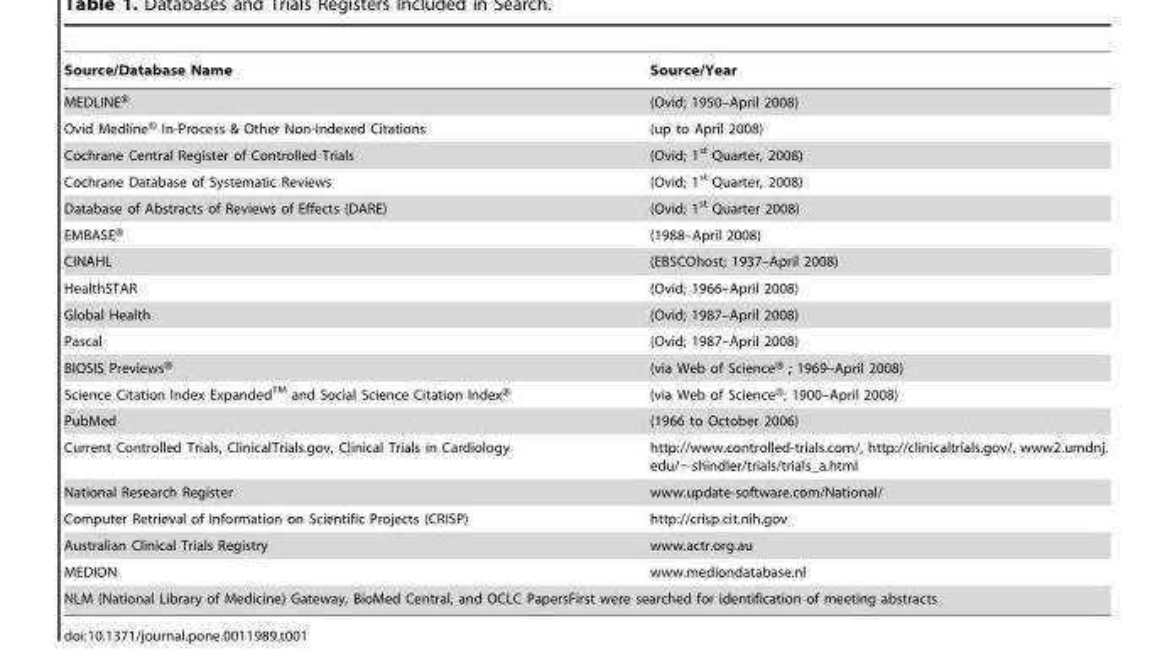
<table><thead><tr><td>Source/Database Name</td><td>Source/Year</td></tr></thead><tbody><tr><td>MEDLINE®</td><td>(Ovid; 1950–April 2008)</td></tr><tr><td>Ovid Medline® In-Process &amp; Other Non-Indexed Citations</td><td>(up to April 2008)</td></tr><tr><td>Cochrane Central Register of Controlled Trials</td><td>(Ovid; 1<sup>st</sup> Quarter, 2008)</td></tr><tr><td>Cochrane Database of Systematic Reviews</td><td>(Ovid; 1<sup>st</sup> Quarter, 2008)</td></tr><tr><td>Database of Abstracts of Reviews of Effects (DARE)</td><td>(Ovid; 1<sup>st</sup> Quarter 2008)</td></tr><tr><td>EMBASE®</td><td>(1988–April 2008)</td></tr><tr><td>CINAHL</td><td>(EBSCOhost; 1937–April 2008)</td></tr><tr><td>HealthSTAR</td><td>(Ovid; 1966–April 2008)</td></tr><tr><td>Global Health</td><td>(Ovid; 1987–April 2008)</td></tr><tr><td>Pascal</td><td>(Ovid; 1987–April 2008)</td></tr><tr><td>BIOSIS Previews®</td><td>(via Web of Science® ; 1969–April 2008)</td></tr><tr><td>Science Citation Index ExpandedTM and Social Science Citation IndexH</td><td>(via Web of Science®; 1900–April 2008)</td></tr><tr><td>PubMed</td><td>(1966 to October 2006)</td></tr><tr><td>Current Controlled Trials, ClinicalTrials.gov, Clinical Trials in Cardiology</td><td>http://www.controlled-trials.com/, http://clinicaltrials.gov/, www2.umdnj. edu/~shindler/trials/trials_a.html</td></tr><tr><td>National Research Register</td><td>www.update-software.com/National/</td></tr><tr><td>Computer Retrieval of Information on Scientific Projects (CRISP)</td><td>http://crisp.cit.nih.gov</td></tr><tr><td>Australian Clinical Trials Registry</td><td>www.actr.org.au</td></tr><tr><td>MEDION</td><td>www.mediondatabase.nl</td></tr><tr><td colspan="2">NLM (National Library of Medicine) Gateway, BioMed Central, and OCLC PapersFirst were searched for identification of meeting abstracts</td></tr></tbody></table>